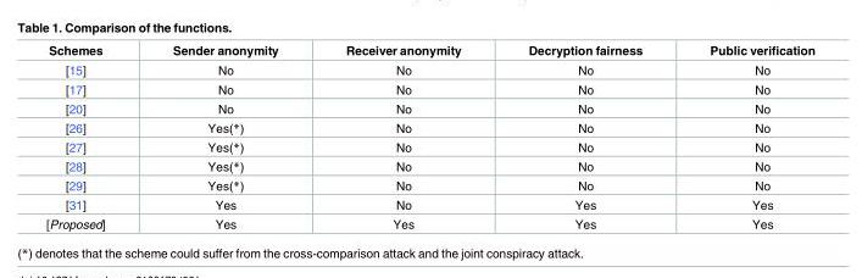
<table><thead><tr><td>Schemes</td><td>Sender anonymity</td><td>Receiver anonymity</td><td>Decryption fairness</td><td>Public verification</td></tr></thead><tbody><tr><td>[15]</td><td>No</td><td>No</td><td>No</td><td>No</td></tr><tr><td>[17]</td><td>No</td><td>No</td><td>No</td><td>No</td></tr><tr><td>[20]</td><td>No</td><td>No</td><td>No</td><td>No</td></tr><tr><td>[26]</td><td>Yes(*)</td><td>No</td><td>No</td><td>No</td></tr><tr><td>[27]</td><td>Yes(*)</td><td>No</td><td>No</td><td>No</td></tr><tr><td>[28]</td><td>Yes(*)</td><td>No</td><td>No</td><td>No</td></tr><tr><td>[29]</td><td>Yes(*)</td><td>No</td><td>No</td><td>No</td></tr><tr><td>[31]</td><td>Yes</td><td>No</td><td>Yes</td><td>Yes</td></tr><tr><td>[Proposed]</td><td>Yes</td><td>Yes</td><td>Yes</td><td>Yes</td></tr></tbody></table>